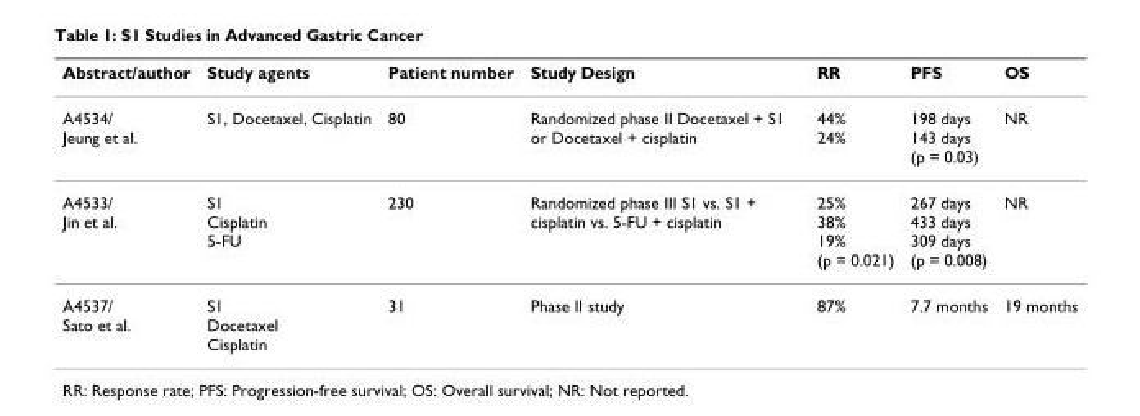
<table><thead><tr><td>Abstract/author</td><td>Study agents</td><td>Patient number</td><td>Study Design</td><td>RR</td><td>PFS</td><td>OS</td></tr></thead><tbody><tr><td>A4534/ Jeung et al.</td><td>S1, Docetaxel, Cisplatin</td><td>80</td><td>Randomized phase II Docetaxel + S1 or Docetaxel + cisplatin</td><td>44% 24%</td><td>198 days 143 days (p = 0.03)</td><td>NR</td></tr><tr><td>A4533/ Jin et al.</td><td>S1 Cisplatin 5-FU</td><td>230</td><td>Randomized phase III S1 vs. S1 + cisplatin vs. 5-FU + cisplatin</td><td>25% 38% 19% (p = 0.021)</td><td>267 days 433 days 309 days (p = 0.008)</td><td>NR</td></tr><tr><td>A4537/ Sato et al.</td><td>S1 Docetaxel Cisplatin</td><td>31</td><td>Phase II study</td><td>87%</td><td>7.7 months</td><td>19 months</td></tr></tbody></table>